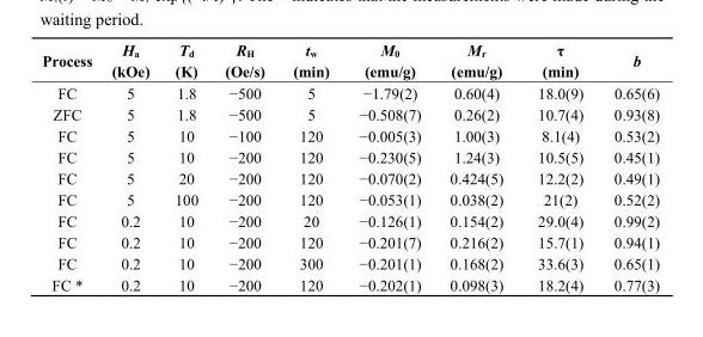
<table><thead><tr><td>Process</td><td>H<sub>a</sub> (kOe)</td><td>T<sub>d</sub> (K)</td><td>R<sub>H</sub> (Oe/s)</td><td>t<sub>w</sub> (min)</td><td>M<sub>0</sub> (emu/g)</td><td>M<sub>r</sub> (emu/g)</td><td>τ (min)</td><td>b</td></tr></thead><tbody><tr><td>FC</td><td>5</td><td>1.8</td><td>−500</td><td>5</td><td>−1.79(2)</td><td>0.60(4)</td><td>18.0(9)</td><td>0.65(6)</td></tr><tr><td>ZFC</td><td>5</td><td>1.8</td><td>−500</td><td>5</td><td>−0.508(7)</td><td>0.26(2)</td><td>10.7(4)</td><td>0.93(8)</td></tr><tr><td>FC</td><td>5</td><td>10</td><td>−100</td><td>120</td><td>−0.005(3)</td><td>1.00(3)</td><td>8.1(4)</td><td>0.53(2)</td></tr><tr><td>FC</td><td>5</td><td>10</td><td>−200</td><td>120</td><td>−0.230(5)</td><td>1.24(3)</td><td>10.5(5)</td><td>0.45(1)</td></tr><tr><td>FC</td><td>5</td><td>20</td><td>−200</td><td>120</td><td>−0.070(2)</td><td>0.424(5)</td><td>12.2(2)</td><td>0.49(1)</td></tr><tr><td>FC</td><td>5</td><td>100</td><td>−200</td><td>120</td><td>−0.053(1)</td><td>0.038(2)</td><td>21(2)</td><td>0.52(2)</td></tr><tr><td>FC</td><td>0.2</td><td>10</td><td>−200</td><td>20</td><td>−0.126(1)</td><td>0.154(2)</td><td>29.0(4)</td><td>0.99(2)</td></tr><tr><td>FC</td><td>0.2</td><td>10</td><td>−200</td><td>120</td><td>−0.201(7)</td><td>0.216(2)</td><td>15.7(1)</td><td>0.94(1)</td></tr><tr><td>FC</td><td>0.2</td><td>10</td><td>−200</td><td>300</td><td>−0.201(1)</td><td>0.168(2)</td><td>33.6(3)</td><td>0.65(1)</td></tr><tr><td>FC *</td><td>0.2</td><td>10</td><td>−200</td><td>120</td><td>−0.202(1)</td><td>0.098(3)</td><td>18.2(4)</td><td>0.77(3)</td></tr></tbody></table>